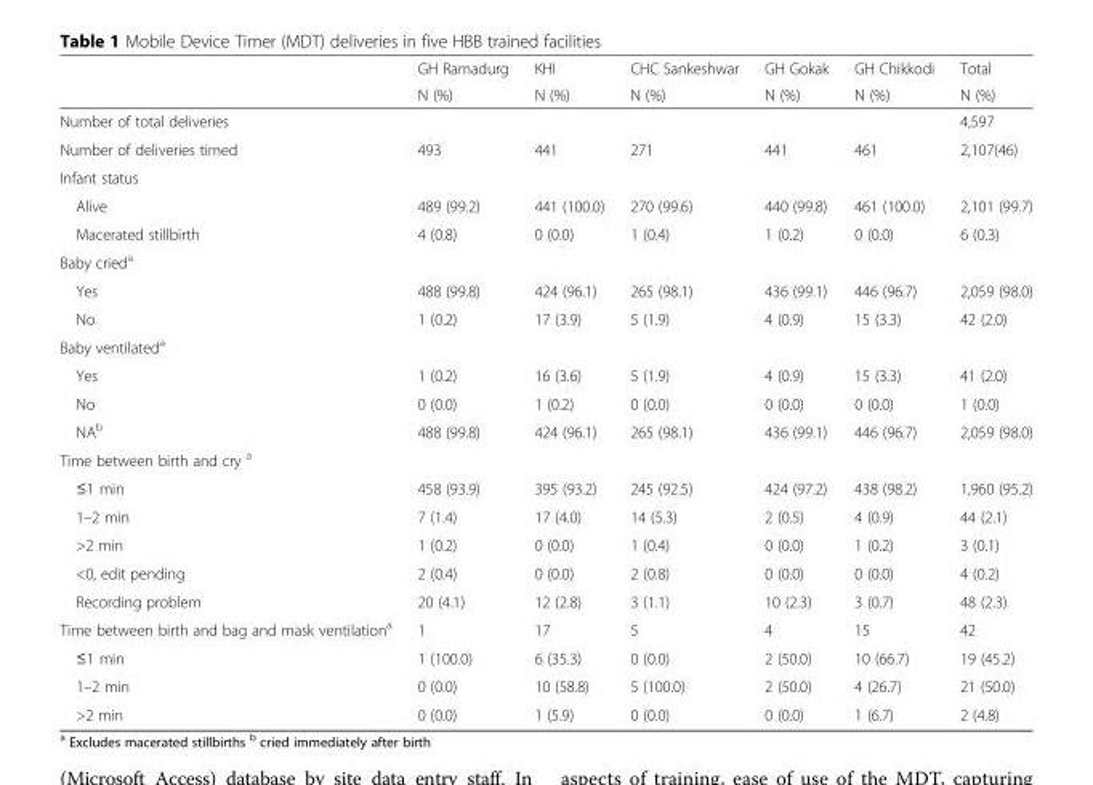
<table><thead><tr><td rowspan="2"></td><td rowspan="2">GH Ramadurg N (%)</td><td rowspan="2">KHI N (%)</td><td rowspan="2">CHC Sankeshwar N (%)</td><td rowspan="2">GH Gokak N (%)</td><td rowspan="2">GH Chikkodi N (%)</td><td rowspan="2">Total N (%)</td></tr><tr></tr></thead><tbody><tr><td>Number of total deliveries</td><td></td><td></td><td></td><td></td><td></td><td>4,597</td></tr><tr><td>Number of deliveries timed</td><td>493</td><td>441</td><td>271</td><td>441</td><td>461</td><td>2,107(46)</td></tr><tr><td colspan="7">Infant status</td></tr><tr><td>Alive</td><td>489 (99.2)</td><td>441 (100.0)</td><td>270 (99.6)</td><td>440 (99.8)</td><td>461 (100.0)</td><td>2,101 (99.7)</td></tr><tr><td>Macerated stillbirth</td><td>4 (0.8)</td><td>0 (0.0)</td><td>1 (0.4)</td><td>1 (0.2)</td><td>0 (0.0)</td><td>6 (0.3)</td></tr><tr><td colspan="7">Baby cried<sup>a</sup></td></tr><tr><td>Yes</td><td>488 (99.8)</td><td>424 (96.1)</td><td>265 (98.1)</td><td>436 (99.1)</td><td>446 (96.7)</td><td>2,059 (98.0)</td></tr><tr><td>No</td><td>1 (0.2)</td><td>17 (3.9)</td><td>5 (1.9)</td><td>4 (0.9)</td><td>15 (3.3)</td><td>42 (2.0)</td></tr><tr><td colspan="7">Baby ventilated<sup>a</sup></td></tr><tr><td>Yes</td><td>1 (0.2)</td><td>16 (3.6)</td><td>5 (1.9)</td><td>4 (0.9)</td><td>15 (3.3)</td><td>41 (2.0)</td></tr><tr><td>No</td><td>0 (0.0)</td><td>1 (0.2)</td><td>0 (0.0)</td><td>0 (0.0)</td><td>0 (0.0)</td><td>1 (0.0)</td></tr><tr><td>NA<sup>b</sup></td><td>488 (99.8)</td><td>424 (96.1)</td><td>265 (98.1)</td><td>436 (99.1)</td><td>446 (96.7)</td><td>2,059 (98.0)</td></tr><tr><td colspan="7">Time between birth and cry <sup>a</sup></td></tr><tr><td>≤1 min</td><td>458 (93.9)</td><td>395 (93.2)</td><td>245 (92.5)</td><td>424 (97.2)</td><td>438 (98.2)</td><td>1,960 (95.2)</td></tr><tr><td>1–2 min</td><td>7 (1.4)</td><td>17 (4.0)</td><td>14 (5.3)</td><td>2 (0.5)</td><td>4 (0.9)</td><td>44 (2.1)</td></tr><tr><td>&gt;2 min</td><td>1 (0.2)</td><td>0 (0.0)</td><td>1 (0.4)</td><td>0 (0.0)</td><td>1 (0.2)</td><td>3 (0.1)</td></tr><tr><td>&lt;0, edit pending</td><td>2 (0.4)</td><td>0 (0.0)</td><td>2 (0.8)</td><td>0 (0.0)</td><td>0 (0.0)</td><td>4 (0.2)</td></tr><tr><td>Recording problem</td><td>20 (4.1)</td><td>12 (2.8)</td><td>3 (1.1)</td><td>10 (2.3)</td><td>3 (0.7)</td><td>48 (2.3)</td></tr><tr><td>Time between birth and bag and mask ventilation<sup>a</sup></td><td>1</td><td>17</td><td>5</td><td>4</td><td>15</td><td>42</td></tr><tr><td>≤1 min</td><td>1 (100.0)</td><td>6 (35.3)</td><td>0 (0.0)</td><td>2 (50.0)</td><td>10 (66.7)</td><td>19 (45.2)</td></tr><tr><td>1–2 min</td><td>0 (0.0)</td><td>10 (58.8)</td><td>5 (100.0)</td><td>2 (50.0)</td><td>4 (26.7)</td><td>21 (50.0)</td></tr><tr><td>&gt;2 min</td><td>0 (0.0)</td><td>1 (5.9)</td><td>0 (0.0)</td><td>0 (0.0)</td><td>1 (6.7)</td><td>2 (4.8)</td></tr></tbody></table>